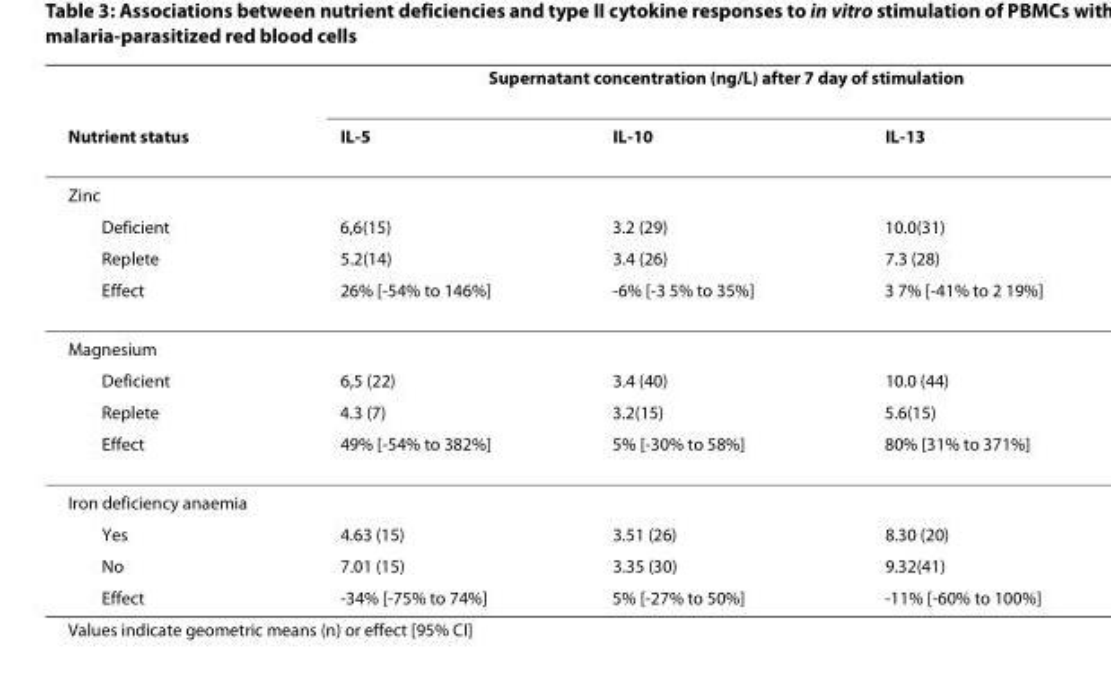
<table><thead><tr><td rowspan="2">Nutrient status</td><td colspan="3">Supernatant concentration (ng/L) after 7 day of stimulation</td></tr><tr><td>IL-5</td><td>IL-10</td><td>IL-13</td></tr></thead><tbody><tr><td colspan="4">Zinc</td></tr><tr><td>Deficient</td><td>6,6(15)</td><td>3.2 (29)</td><td>10.0(31)</td></tr><tr><td>Replete</td><td>5.2(14)</td><td>3.4 (26)</td><td>7.3 (28)</td></tr><tr><td>Effect</td><td>26% [-54% to 146%]</td><td>-6% [-3 5% to 35%]</td><td>3 7% [-41% to 2 19%]</td></tr><tr><td colspan="4">Magnesium</td></tr><tr><td>Deficient</td><td>6,5 (22)</td><td>3.4 (40)</td><td>10.0 (44)</td></tr><tr><td>Replete</td><td>4.3 (7)</td><td>3.2(15)</td><td>5.6(15)</td></tr><tr><td>Effect</td><td>49% [-54% to 382%]</td><td>5% [-30% to 58%]</td><td>80% [31% to 371%]</td></tr><tr><td colspan="4">Iron deficiency anaemia</td></tr><tr><td>Yes</td><td>4.63 (15)</td><td>3.51 (26)</td><td>8.30 (20)</td></tr><tr><td>No</td><td>7.01 (15)</td><td>3.35 (30)</td><td>9.32(41)</td></tr><tr><td>Effect</td><td>-34% [-75% to 74%]</td><td>5% [-27% to 50%]</td><td>-11% [-60% to 100%]</td></tr></tbody></table>